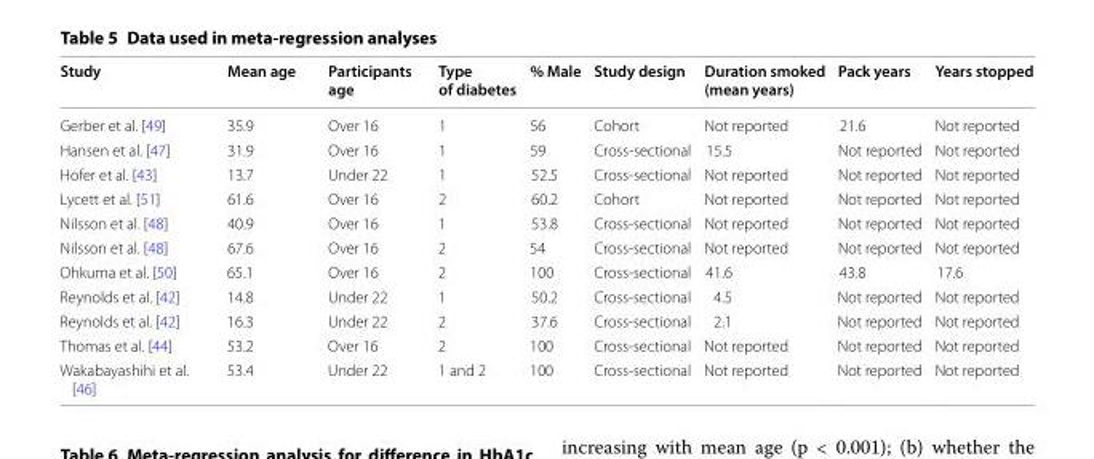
<table><thead><tr><td>Study</td><td>Mean age</td><td>Participants age</td><td>Type of diabetes</td><td>% Male</td><td>Study design</td><td>Duration smoked (mean years)</td><td>Pack years</td><td>Years stopped</td></tr></thead><tbody><tr><td>Gerber et al. [49]</td><td>35.9</td><td>Over 16</td><td>1</td><td>56</td><td>Cohort</td><td>Not reported</td><td>21.6</td><td>Not reported</td></tr><tr><td>Hansen et al. [47]</td><td>31.9</td><td>Over 16</td><td>1</td><td>59</td><td>Cross-sectional</td><td>15.5</td><td>Not reported</td><td>Not reported</td></tr><tr><td>Hofer et al. [43]</td><td>13.7</td><td>Under 22</td><td>1</td><td>52.5</td><td>Cross-sectional</td><td>Not reported</td><td>Not reported</td><td>Not reported</td></tr><tr><td>Lycett et al. [51]</td><td>61.6</td><td>Over 16</td><td>2</td><td>60.2</td><td>Cohort</td><td>Not reported</td><td>Not reported</td><td>Not reported</td></tr><tr><td>Nilsson et al. [48]</td><td>40.9</td><td>Over 16</td><td>1</td><td>53.8</td><td>Cross-sectional</td><td>Not reported</td><td>Not reported</td><td>Not reported</td></tr><tr><td>Nilsson et al. [48]</td><td>67.6</td><td>Over 16</td><td>2</td><td>54</td><td>Cross-sectional</td><td>Not reported</td><td>Not reported</td><td>Not reported</td></tr><tr><td>Ohkuma et al. [50]</td><td>65.1</td><td>Over 16</td><td>2</td><td>100</td><td>Cross-sectional</td><td>41.6</td><td>43.8</td><td>17.6</td></tr><tr><td>Reynolds et al. [42]</td><td>14.8</td><td>Under 22</td><td>1</td><td>50.2</td><td>Cross-sectional</td><td>4.5</td><td>Not reported</td><td>Not reported</td></tr><tr><td>Reynolds et al. [42]</td><td>16.3</td><td>Under 22</td><td>2</td><td>37.6</td><td>Cross-sectional</td><td>2.1</td><td>Not reported</td><td>Not reported</td></tr><tr><td>Thomas et al. [44]</td><td>53.2</td><td>Over 16</td><td>2</td><td>100</td><td>Cross-sectional</td><td>Not reported</td><td>Not reported</td><td>Not reported</td></tr><tr><td>Wakabayashihi et al. [46]</td><td>53.4</td><td>Under 22</td><td>1 and 2</td><td>100</td><td>Cross-sectional</td><td>Not reported</td><td>Not reported</td><td>Not reported</td></tr></tbody></table>